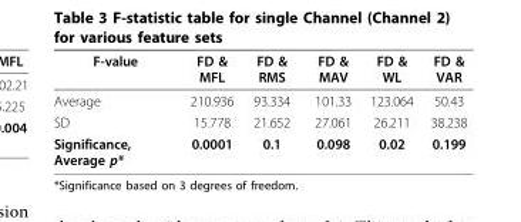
<table><thead><tr><td>F-value</td><td>FD &amp; MFL</td><td>FD &amp; RMS</td><td>FD &amp; MAV</td><td>FD &amp; WL</td><td>FD &amp; VAR</td></tr></thead><tbody><tr><td>Average</td><td>210.936</td><td>93.334</td><td>101.33</td><td>123.064</td><td>50.43</td></tr><tr><td>SD</td><td>15.778</td><td>21.652</td><td>27.061</td><td>26.211</td><td>38.238</td></tr><tr><td>Significance, Average p*</td><td>0.0001</td><td>0.1</td><td>0.098</td><td>0.02</td><td>0.199</td></tr></tbody></table>